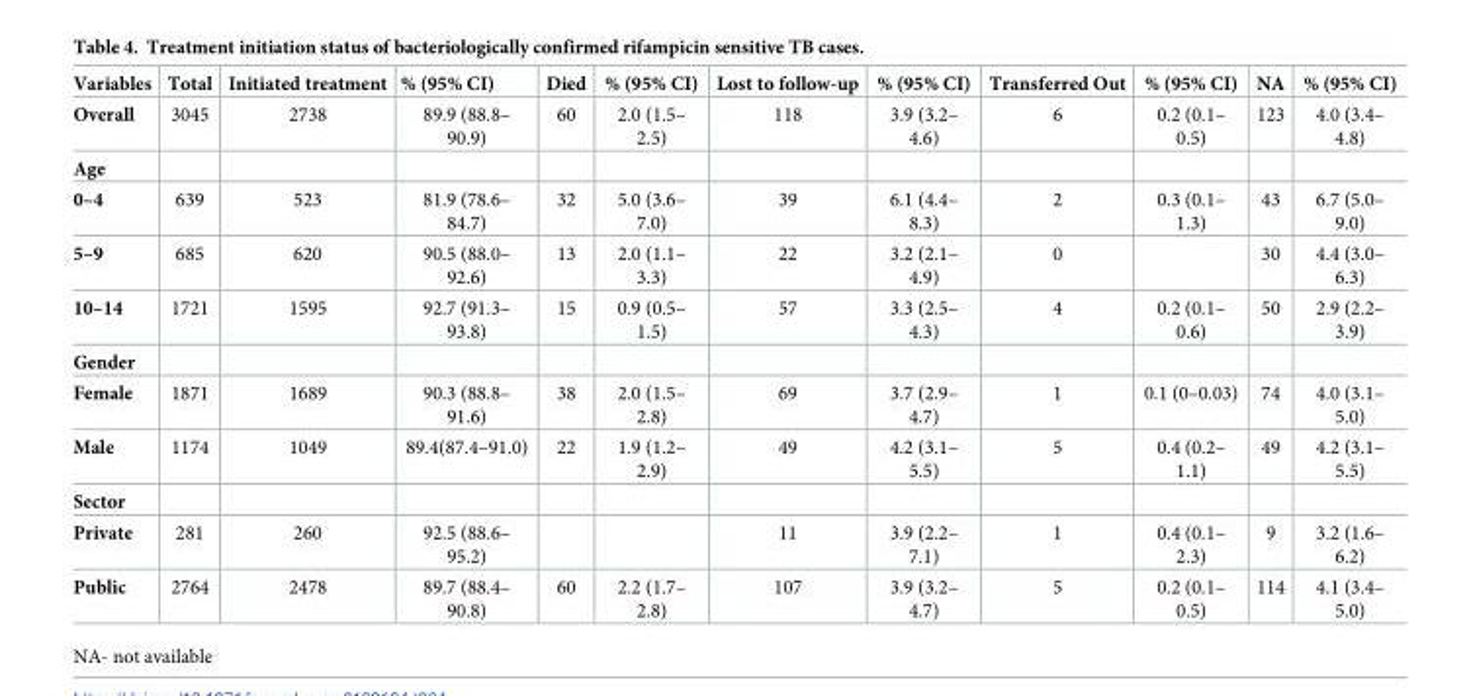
<table><thead><tr><td>Variables</td><td>Total</td><td>Initiated treatment</td><td>% (95% CI)</td><td>Died</td><td>% (95% CI)</td><td>Lost to follow-up</td><td>% (95% CI)</td><td>Transferred Out</td><td>% (95% CI)</td><td>NA</td><td>% (95% CI)</td></tr></thead><tbody><tr><td>Overall</td><td>3045</td><td>2738</td><td>89.9 (88.8– 90.9)</td><td>60</td><td>2.0 (1.5– 2.5)</td><td>118</td><td>3.9 (3.2– 4.6)</td><td>6</td><td>0.2 (0.1– 0.5)</td><td>123</td><td>4.0 (3.4– 4.8)</td></tr><tr><td colspan="12">Age</td></tr><tr><td>0–4</td><td>639</td><td>523</td><td>81.9 (78.6– 84.7)</td><td>32</td><td>5.0 (3.6– 7.0)</td><td>39</td><td>6.1 (4.4– 8.3)</td><td>2</td><td>0.3 (0.1– 1.3)</td><td>43</td><td>6.7 (5.0– 9.0)</td></tr><tr><td>5–9</td><td>685</td><td>620</td><td>90.5 (88.0– 92.6)</td><td>13</td><td>2.0 (1.1– 3.3)</td><td>22</td><td>3.2 (2.1– 4.9)</td><td>0</td><td></td><td>30</td><td>4.4 (3.0– 6.3)</td></tr><tr><td>10–14</td><td>1721</td><td>1595</td><td>92.7 (91.3– 93.8)</td><td>15</td><td>0.9 (0.5– 1.5)</td><td>57</td><td>3.3 (2.5– 4.3)</td><td>4</td><td>0.2 (0.1– 0.6)</td><td>50</td><td>2.9 (2.2– 3.9)</td></tr><tr><td colspan="12">Gender</td></tr><tr><td>Female</td><td>1871</td><td>1689</td><td>90.3 (88.8– 91.6)</td><td>38</td><td>2.0 (1.5– 2.8)</td><td>69</td><td>3.7 (2.9– 4.7)</td><td>1</td><td>0.1 (0–0.03)</td><td>74</td><td>4.0 (3.1– 5.0)</td></tr><tr><td>Male</td><td>1174</td><td>1049</td><td>89.4(87.4–91.0)</td><td>22</td><td>1.9 (1.2– 2.9)</td><td>49</td><td>4.2 (3.1– 5.5)</td><td>5</td><td>0.4 (0.2– 1.1)</td><td>49</td><td>4.2 (3.1– 5.5)</td></tr><tr><td colspan="12">Sector</td></tr><tr><td>Private</td><td>281</td><td>260</td><td>92.5 (88.6– 95.2)</td><td></td><td></td><td>11</td><td>3.9 (2.2– 7.1)</td><td>1</td><td>0.4 (0.1– 2.3)</td><td>9</td><td>3.2 (1.6– 6.2)</td></tr><tr><td>Public</td><td>2764</td><td>2478</td><td>89.7 (88.4– 90.8)</td><td>60</td><td>2.2 (1.7– 2.8)</td><td>107</td><td>3.9 (3.2– 4.7)</td><td>5</td><td>0.2 (0.1– 0.5)</td><td>114</td><td>4.1 (3.4– 5.0)</td></tr></tbody></table>